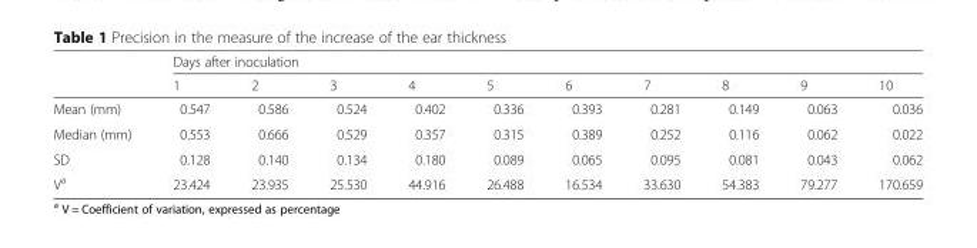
<table><thead><tr><td rowspan="2"></td><td colspan="10">Days after inoculation</td></tr><tr><td>1</td><td>2</td><td>3</td><td>4</td><td>5</td><td>6</td><td>7</td><td>8</td><td>9</td><td>10</td></tr></thead><tbody><tr><td>Mean (mm)</td><td>0.547</td><td>0.586</td><td>0.524</td><td>0.402</td><td>0.336</td><td>0.393</td><td>0.281</td><td>0.149</td><td>0.063</td><td>0.036</td></tr><tr><td>Median (mm)</td><td>0.553</td><td>0.666</td><td>0.529</td><td>0.357</td><td>0.315</td><td>0.389</td><td>0.252</td><td>0.116</td><td>0.062</td><td>0.022</td></tr><tr><td>SD</td><td>0.128</td><td>0.140</td><td>0.134</td><td>0.180</td><td>0.089</td><td>0.065</td><td>0.095</td><td>0.081</td><td>0.043</td><td>0.062</td></tr><tr><td>V<sup>a</sup></td><td>23.424</td><td>23.935</td><td>25.530</td><td>44.916</td><td>26.488</td><td>16.534</td><td>33.630</td><td>54.383</td><td>79.277</td><td>170.659</td></tr></tbody></table>